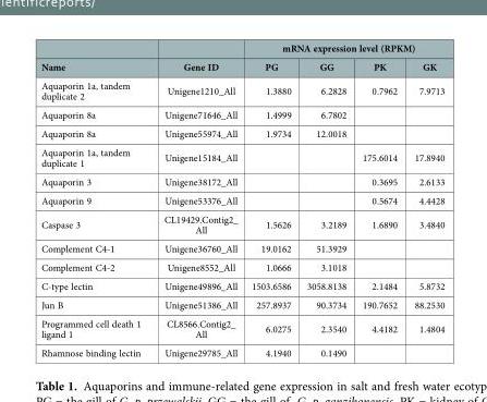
<table><thead><tr><td rowspan="2">Name</td><td rowspan="2">Gene ID</td><td colspan="4">mRNA expression level (RPKM)</td></tr><tr><td>PG</td><td>GG</td><td>PK</td><td>GK</td></tr></thead><tbody><tr><td>Aquaporin 1a, tandem duplicate 2</td><td>Unigene1210_All</td><td>1.3880</td><td>6.2828</td><td>0.7962</td><td>7.9713</td></tr><tr><td>Aquaporin 8a</td><td>Unigene71646_All</td><td>1.4999</td><td>6.7802</td><td></td><td></td></tr><tr><td>Aquaporin 8a</td><td>Unigene55974_All</td><td>1.9734</td><td>12.0018</td><td></td><td></td></tr><tr><td>Aquaporin 1a, tandem duplicate 1</td><td>Unigene15184_All</td><td></td><td></td><td>175.6014</td><td>17.8940</td></tr><tr><td>Aquaporin 3</td><td>Unigene38172_All</td><td></td><td></td><td>0.3695</td><td>2.6133</td></tr><tr><td>Aquaporin 9</td><td>Unigene53376_All</td><td></td><td></td><td>0.5674</td><td>4.4428</td></tr><tr><td>Caspase 3</td><td>CL19429.Contig2_ All</td><td>1.5626</td><td>3.2189</td><td>1.6890</td><td>3.4840</td></tr><tr><td>Complement C4-1</td><td>Unigene36760_All</td><td>19.0162</td><td>51.3929</td><td></td><td></td></tr><tr><td>Complement C4-2</td><td>Unigene8552_All</td><td>1.0666</td><td>3.1018</td><td></td><td></td></tr><tr><td>C-type lectin</td><td>Unigene49896_All</td><td>1503.6586</td><td>3058.8138</td><td>2.1484</td><td>5.8732</td></tr><tr><td>Jun B</td><td>Unigene51386_All</td><td>257.8937</td><td>90.3734</td><td>190.7652</td><td>88.2530</td></tr><tr><td>Programmed cell death 1 ligand 1</td><td>CL8566.Contig2_ All</td><td>6.0275</td><td>2.3540</td><td>4.4182</td><td>1.4804</td></tr><tr><td>Rhamnose binding lectin</td><td>Unigene29785_All</td><td>4.1940</td><td>0.1490</td><td></td><td></td></tr></tbody></table>